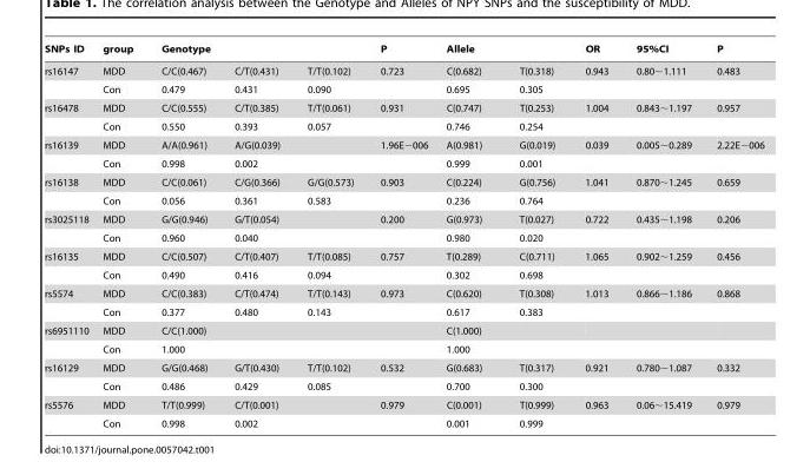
<table><thead><tr><td rowspan="2">SNPs ID rs16147</td><td rowspan="2">group MDD</td><td colspan="3">Genotype</td><td rowspan="2">P 0.723</td><td colspan="2">Allele</td><td rowspan="2">OR 0.943</td><td rowspan="2">95%CI 0.80∼1.111</td><td rowspan="2">P 0.483</td></tr><tr><td>C/C(0.467)</td><td>C/T(0.431)</td><td>T/T(0.102)</td><td>C(0.682)</td><td>T(0.318)</td></tr></thead><tbody><tr><td></td><td>Con</td><td>0.479</td><td>0.431</td><td>0.090</td><td></td><td>0.695</td><td>0.305</td><td></td><td></td><td></td></tr><tr><td rowspan="2">rs16478</td><td>MDD</td><td>C/C(0.555)</td><td>C/T(0.385)</td><td>T/T(0.061)</td><td>0.931</td><td>C(0.747)</td><td>T(0.253)</td><td>1.004</td><td>0.843∼1.197</td><td>0.957</td></tr><tr><td>Con</td><td>0.550</td><td>0.393</td><td>0.057</td><td></td><td>0.746</td><td>0.254</td><td></td><td></td><td></td></tr><tr><td rowspan="2">rs16139</td><td>MDD</td><td>A/A(0.961)</td><td>A/G(0.039)</td><td></td><td>1.96E−006</td><td>A(0.981)</td><td>G(0.019)</td><td>0.039</td><td>0.005∼0.289</td><td>2.22E−006</td></tr><tr><td>Con</td><td>0.998</td><td>0.002</td><td></td><td></td><td>0.999</td><td>0.001</td><td></td><td></td><td></td></tr><tr><td rowspan="2">rs16138</td><td>MDD</td><td>C/C(0.061)</td><td>C/G(0.366)</td><td>G/G(0.573)</td><td>0.903</td><td>C(0.224)</td><td>G(0.756)</td><td>1.041</td><td>0.870∼1.245</td><td>0.659</td></tr><tr><td>Con</td><td>0.056</td><td>0.361</td><td>0.583</td><td></td><td>0.236</td><td>0.764</td><td></td><td></td><td></td></tr><tr><td rowspan="2">rs3025118</td><td>MDD</td><td>G/G(0.946)</td><td>G/T(0.054)</td><td></td><td>0.200</td><td>G(0.973)</td><td>T(0.027)</td><td>0.722</td><td>0.435∼1.198</td><td>0.206</td></tr><tr><td>Con</td><td>0.960</td><td>0.040</td><td></td><td></td><td>0.980</td><td>0.020</td><td></td><td></td><td></td></tr><tr><td rowspan="2">rs16135</td><td>MDD</td><td>C/C(0.507)</td><td>C/T(0.407)</td><td>T/T(0.085)</td><td>0.757</td><td>T(0.289)</td><td>C(0.711)</td><td>1.065</td><td>0.902∼1.259</td><td>0.456</td></tr><tr><td>Con</td><td>0.490</td><td>0.416</td><td>0.094</td><td></td><td>0.302</td><td>0.698</td><td></td><td></td><td></td></tr><tr><td rowspan="2">rs5574</td><td>MDD</td><td>C/C(0.383)</td><td>C/T(0.474)</td><td>T/T(0.143)</td><td>0.973</td><td>C(0.620)</td><td>T(0.308)</td><td>1.013</td><td>0.866∼1.186</td><td>0.868</td></tr><tr><td>Con</td><td>0.377</td><td>0.480</td><td>0.143</td><td></td><td>0.617</td><td>0.383</td><td></td><td></td><td></td></tr><tr><td rowspan="2">rs6951110</td><td>MDD</td><td>C/C(1.000)</td><td></td><td></td><td></td><td>C(1.000)</td><td></td><td></td><td></td><td></td></tr><tr><td>Con</td><td>1.000</td><td></td><td></td><td></td><td>1.000</td><td></td><td></td><td></td><td></td></tr><tr><td rowspan="2">rs16129</td><td>MDD</td><td>G/G(0.468)</td><td>G/T(0.430)</td><td>T/T(0.102)</td><td>0.532</td><td>G(0.683)</td><td>T(0.317)</td><td>0.921</td><td>0.780∼1.087</td><td>0.332</td></tr><tr><td>Con</td><td>0.486</td><td>0.429</td><td>0.085</td><td></td><td>0.700</td><td>0.300</td><td></td><td></td><td></td></tr><tr><td rowspan="2">rs5576</td><td>MDD</td><td>T/T(0.999)</td><td>C/T(0.001)</td><td></td><td>0.979</td><td>C(0.001)</td><td>T(0.999)</td><td>0.963</td><td>0.06∼15.419</td><td>0.979</td></tr><tr><td>Con</td><td>0.998</td><td>0.002</td><td></td><td></td><td>0.001</td><td>0.999</td><td></td><td></td><td></td></tr></tbody></table>